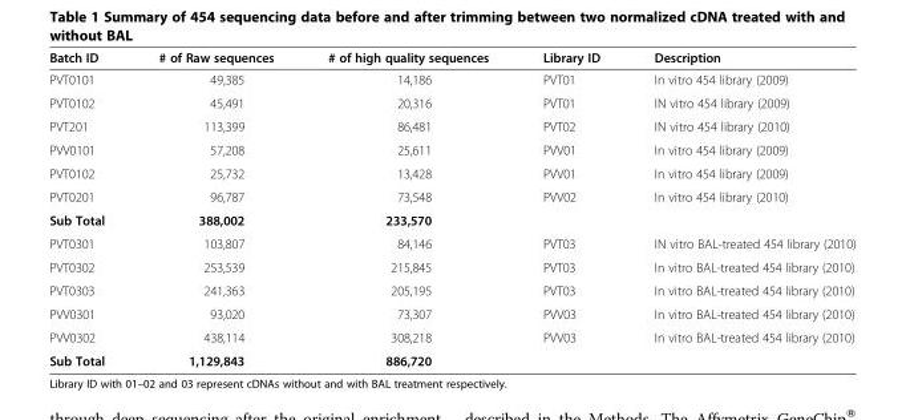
<table><thead><tr><td>Batch ID</td><td># of Raw sequences</td><td># of high quality sequences</td><td>Library ID</td><td>Description</td></tr></thead><tbody><tr><td>PVT0101</td><td>49,385</td><td>14,186</td><td>PVT01</td><td>In vitro 454 library (2009)</td></tr><tr><td>PVT0102</td><td>45,491</td><td>20,316</td><td>PVT01</td><td>IN vitro 454 library (2009)</td></tr><tr><td>PVT201</td><td>113,399</td><td>86,481</td><td>PVT02</td><td>IN vitro 454 library (2010)</td></tr><tr><td>PVV0101</td><td>57,208</td><td>25,611</td><td>PVV01</td><td>In vitro 454 library (2009)</td></tr><tr><td>PVT0102</td><td>25,732</td><td>13,428</td><td>PVV01</td><td>In vitro 454 library (2009)</td></tr><tr><td>PVT0201</td><td>96,787</td><td>73,548</td><td>PVV02</td><td>In vitro 454 library (2010)</td></tr><tr><td>Sub Total</td><td>388,002</td><td>233,570</td><td></td><td></td></tr><tr><td>PVT0301</td><td>103,807</td><td>84,146</td><td>PVT03</td><td>IN vitro BAL-treated 454 library (2010)</td></tr><tr><td>PVT0302</td><td>253,539</td><td>215,845</td><td>PVT03</td><td>In vitro BAL-treated 454 library (2010)</td></tr><tr><td>PVT0303</td><td>241,363</td><td>205,195</td><td>PVT03</td><td>In vitro BAL-treated 454 library (2010)</td></tr><tr><td>PVV0301</td><td>93,020</td><td>73,307</td><td>PVV03</td><td>In vitro BAL-treated 454 library (2010)</td></tr><tr><td>PVV0302</td><td>438,114</td><td>308,218</td><td>PVV03</td><td>In vitro BAL-treated 454 library (2010)</td></tr><tr><td>Sub Total</td><td>1,129,843</td><td>886,720</td><td></td><td></td></tr></tbody></table>